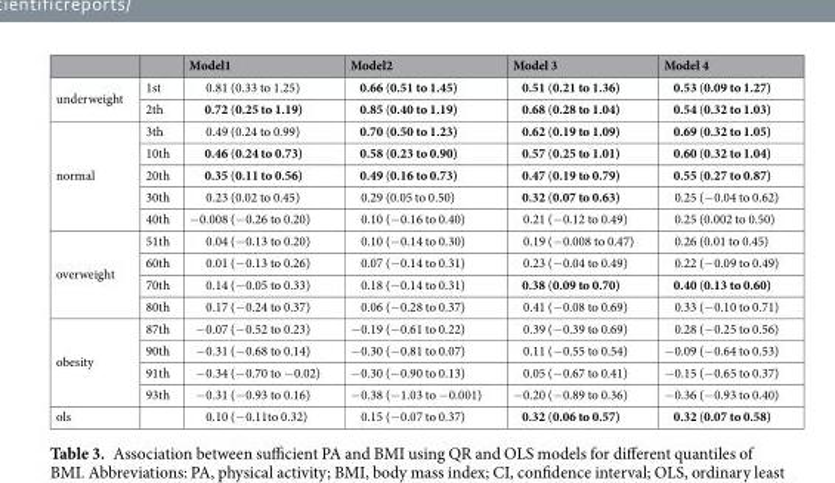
<table><thead><tr><td></td><td></td><td>Model1</td><td>Model2</td><td>Model 3</td><td>Model 4</td></tr></thead><tbody><tr><td rowspan="2">underweight</td><td>1st</td><td>0.81 (0.33 to 1.25)</td><td>0.66 (0.51 to 1.45)</td><td>0.51 (0.21 to 1.36)</td><td>0.53 (0.09 to 1.27)</td></tr><tr><td>2th</td><td>0.72 (0.25 to 1.19)</td><td>0.85 (0.40 to 1.19)</td><td>0.68 (0.28 to 1.04)</td><td>0.54 (0.32 to 1.03)</td></tr><tr><td rowspan="5">normal</td><td>3th</td><td>0.49 (0.24 to 0.99)</td><td>0.70 (0.50 to 1.23)</td><td>0.62 (0.19 to 1.09)</td><td>0.69 (0.32 to 1.05)</td></tr><tr><td>10th</td><td>0.46 (0.24 to 0.73)</td><td>0.58 (0.23 to 0.90)</td><td>0.57 (0.25 to 1.01)</td><td>0.60 (0.32 to 1.04)</td></tr><tr><td>20th</td><td>0.35 (0.11 to 0.56)</td><td>0.49 (0.16 to 0.73)</td><td>0.47 (0.19 to 0.79)</td><td>0.55 (0.27 to 0.87)</td></tr><tr><td>30th</td><td>0.23 (0.02 to 0.45)</td><td>0.29 (0.05 to 0.50)</td><td>0.32 (0.07 to 0.63)</td><td>0.25 (−0.04 to 0.62)</td></tr><tr><td>40th</td><td>−0.008 (−0.26 to 0.20)</td><td>0.10 (−0.16 to 0.40)</td><td>0.21 (−0.12 to 0.49)</td><td>0.25 (0.002 to 0.50)</td></tr><tr><td rowspan="4">overweight</td><td>51th</td><td>0.04 (−0.13 to 0.20)</td><td>0.10 (−0.14 to 0.30)</td><td>0.19 (−0.008 to 0.47)</td><td>0.26 (0.01 to 0.45)</td></tr><tr><td>60th</td><td>0.01 (−0.13 to 0.26)</td><td>0.07 (−0.14 to 0.31)</td><td>0.23 (−0.04 to 0.49)</td><td>0.22 (−0.09 to 0.49)</td></tr><tr><td>70th</td><td>0.14 (−0.05 to 0.33)</td><td>0.18 (−0.14 to 0.31)</td><td>0.38 (0.09 to 0.70)</td><td>0.40 (0.13 to 0.60)</td></tr><tr><td>80th</td><td>0.17 (−0.24 to 0.37)</td><td>0.06 (−0.28 to 0.37)</td><td>0.41 (−0.08 to 0.69)</td><td>0.33 (−0.10 to 0.71)</td></tr><tr><td rowspan="4">obesity</td><td>87th</td><td>−0.07 (−0.52 to 0.23)</td><td>−0.19 (−0.61 to 0.22)</td><td>0.39 (−0.39 to 0.69)</td><td>0.28 (−0.25 to 0.56)</td></tr><tr><td>90th</td><td>−0.31 (−0.68 to 0.14)</td><td>−0.30 (−0.81 to 0.07)</td><td>0.11 (−0.55 to 0.54)</td><td>−0.09 (−0.64 to 0.53)</td></tr><tr><td>91th</td><td>−0.34 (−0.70 to −0.02)</td><td>−0.30 (−0.90 to 0.13)</td><td>0.05 (−0.67 to 0.41)</td><td>−0.15 (−0.65 to 0.37)</td></tr><tr><td>93th</td><td>−0.31 (−0.93 to 0.16)</td><td>−0.38 (−1.03 to −0.001)</td><td>−0.20 (−0.89 to 0.36)</td><td>−0.36 (−0.93 to 0.40)</td></tr><tr><td>ols</td><td></td><td>0.10 (−0.11to 0.32)</td><td>0.15 (−0.07 to 0.37)</td><td>0.32 (0.06 to 0.57)</td><td>0.32 (0.07 to 0.58)</td></tr></tbody></table>